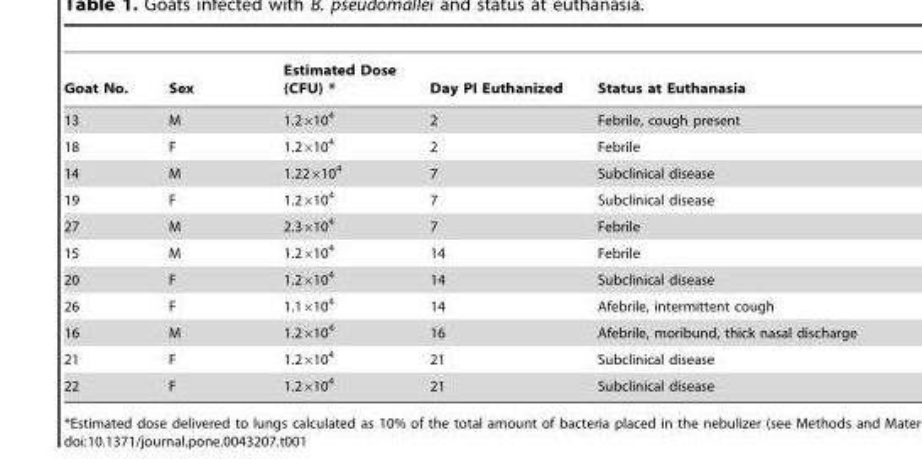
<table><thead><tr><td>Goat No.</td><td>Sex</td><td>Estimated Dose (CFU) *</td><td>Day PI Euthanized</td><td>Status at Euthanasia</td></tr></thead><tbody><tr><td>13</td><td>M</td><td>1.2×10<sup>4</sup></td><td>2</td><td>Febrile, cough present</td></tr><tr><td>18</td><td>F</td><td>1.2×10<sup>4</sup></td><td>2</td><td>Febrile</td></tr><tr><td>14</td><td>M</td><td>1.22×10<sup>4</sup></td><td>7</td><td>Subclinical disease</td></tr><tr><td>19</td><td>F</td><td>1.2×10<sup>4</sup></td><td>7</td><td>Subclinical disease</td></tr><tr><td>27</td><td>M</td><td>2.3×10<sup>4</sup></td><td>7</td><td>Febrile</td></tr><tr><td>15</td><td>M</td><td>1.2×10<sup>4</sup></td><td>14</td><td>Febrile</td></tr><tr><td>20</td><td>F</td><td>1.2×10<sup>4</sup></td><td>14</td><td>Subclinical disease</td></tr><tr><td>26</td><td>F</td><td>1.1×10<sup>4</sup></td><td>14</td><td>Afebrile, intermittent cough</td></tr><tr><td>16</td><td>M</td><td>1.2×10<sup>4</sup></td><td>16</td><td>Afebrile, moribund, thick nasal discharge</td></tr><tr><td>21</td><td>F</td><td>1.2×10<sup>4</sup></td><td>21</td><td>Subclinical disease</td></tr><tr><td>22</td><td>F</td><td>1.2×10<sup>4</sup></td><td>21</td><td>Subclinical disease</td></tr></tbody></table>